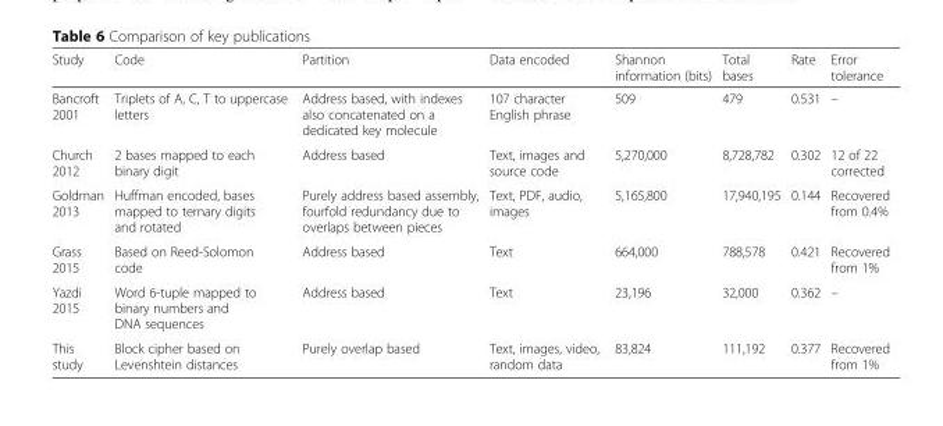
<table><thead><tr><td>Study</td><td>Code</td><td>Partition</td><td>Data encoded</td><td>Shannon information (bits)</td><td>Total bases</td><td>Rate</td><td>Error tolerance</td></tr></thead><tbody><tr><td>Bancroft 2001</td><td>Triplets of A, C, T to uppercase letters</td><td>Address based, with indexes also concatenated on a dedicated key molecule</td><td>107 character English phrase</td><td>509</td><td>479</td><td>0.531</td><td>–</td></tr><tr><td>Church 2012</td><td>2 bases mapped to each binary digit</td><td>Address based</td><td>Text, images and source code</td><td>5,270,000</td><td>8,728,782</td><td>0.302</td><td>12 of 22 corrected</td></tr><tr><td>Goldman 2013</td><td>Huffman encoded, bases mapped to ternary digits and rotated</td><td>Purely address based assembly, fourfold redundancy due to overlaps between pieces</td><td>Text, PDF, audio, images</td><td>5,165,800</td><td>17,940,195</td><td>0.144</td><td>Recovered from 0.4%</td></tr><tr><td>Grass 2015</td><td>Based on Reed-Solomon code</td><td>Address based</td><td>Text</td><td>664,000</td><td>788,578</td><td>0.421</td><td>Recovered from 1%</td></tr><tr><td>Yazdi 2015</td><td>Word 6-tuple mapped to binary numbers and DNA sequences</td><td>Address based</td><td>Text</td><td>23,196</td><td>32,000</td><td>0.362</td><td>–</td></tr><tr><td>This study</td><td>Block cipher based on Levenshtein distances</td><td>Purely overlap based</td><td>Text, images, video, random data</td><td>83,824</td><td>111,192</td><td>0.377</td><td>Recovered from 1%</td></tr></tbody></table>